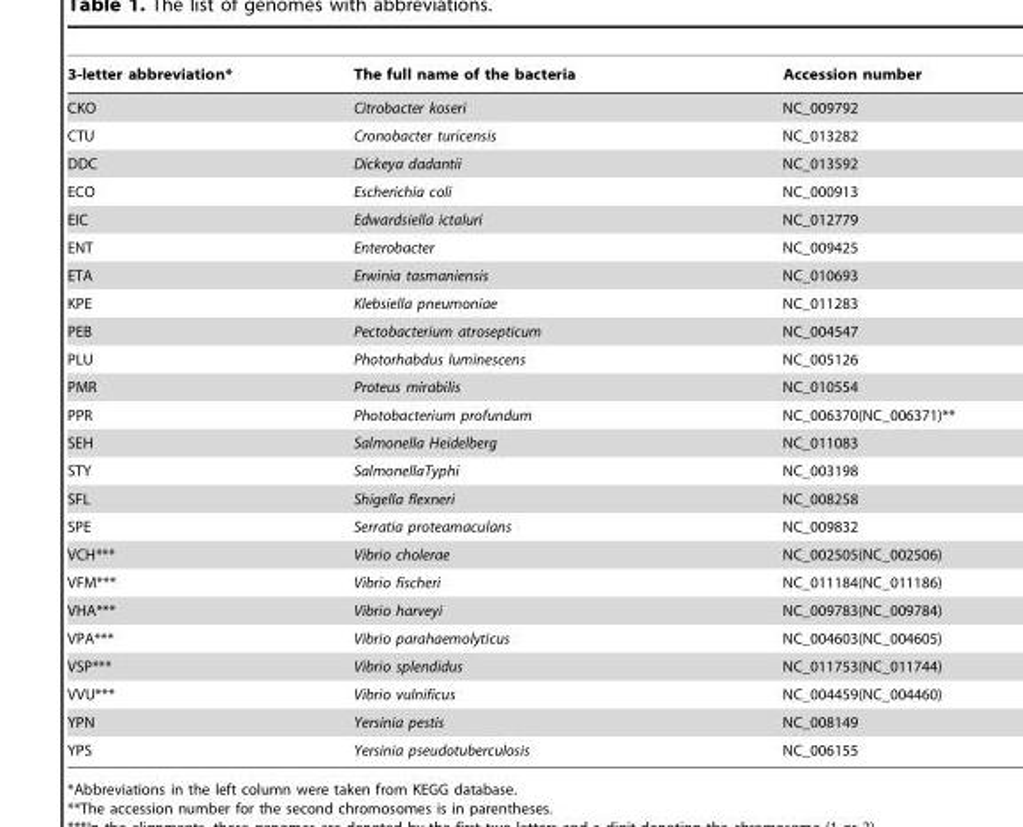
<table><thead><tr><td>3-letter abbreviation*</td><td>The full name of the bacteria</td><td>Accession number</td></tr></thead><tbody><tr><td>CKO</td><td>Citrobacter koseri</td><td>NC_009792</td></tr><tr><td>CTU</td><td>Cronobacter turicensis</td><td>NC_013282</td></tr><tr><td>DDC</td><td>Dickeya dadantii</td><td>NC_013592</td></tr><tr><td>ECO</td><td>Escherichia coli</td><td>NC_000913</td></tr><tr><td>EIC</td><td>Edwardsiella ictaluri</td><td>NC_012779</td></tr><tr><td>ENT</td><td>Enterobacter</td><td>NC_009425</td></tr><tr><td>ETA</td><td>Erwinia tasmaniensis</td><td>NC_010693</td></tr><tr><td>KPE</td><td>Klebsiella pneumoniae</td><td>NC_011283</td></tr><tr><td>PEB</td><td>Pectobacterium atrosepticum</td><td>NC_004547</td></tr><tr><td>PLU</td><td>Photorhabdus luminescens</td><td>NC_005126</td></tr><tr><td>PMR</td><td>Proteus mirabilis</td><td>NC_010554</td></tr><tr><td>PPR</td><td>Photobacterium profundum</td><td>NC_006370(NC_006371)**</td></tr><tr><td>SEH</td><td>Salmonella Heidelberg</td><td>NC_011083</td></tr><tr><td>STY</td><td>SalmonellaTyphi</td><td>NC_003198</td></tr><tr><td>SFL</td><td>Shigella flexneri</td><td>NC_008258</td></tr><tr><td>SPE</td><td>Serratia proteamaculans</td><td>NC_009832</td></tr><tr><td>VCH***</td><td>Vibrio cholerae</td><td>NC_002505(NC_002506)</td></tr><tr><td>VFM***</td><td>Vibrio fischeri</td><td>NC_011184(NC_011186)</td></tr><tr><td>VHA***</td><td>Vibrio harveyi</td><td>NC_009783(NC_009784)</td></tr><tr><td>VPA***</td><td>Vibrio parahaemolyticus</td><td>NC_004603(NC_004605)</td></tr><tr><td>VSP***</td><td>Vibrio splendidus</td><td>NC_011753(NC_011744)</td></tr><tr><td>VVU***</td><td>Vibrio vulnificus</td><td>NC_004459(NC_004460)</td></tr><tr><td>YPN</td><td>Yersinia pestis</td><td>NC_008149</td></tr><tr><td>YPS</td><td>Yersinia pseudotuberculosis</td><td>NC_006155</td></tr></tbody></table>